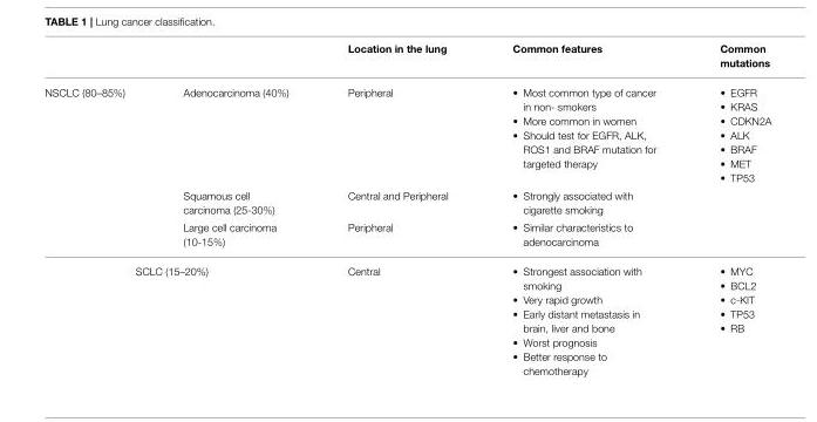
<table><thead><tr><td></td><td></td><td>Location in the lung</td><td>Common features</td><td>Common mutations</td></tr></thead><tbody><tr><td rowspan="3">NSCLC (80–85%)</td><td>Adenocarcinoma (40%)</td><td>Peripheral</td><td>• Most common type of cancer in non- smokers • More common in women • Should test for EGFR, ALK, ROS1 and BRAF mutation for targeted therapy</td><td>• EGFR • KRAS • CDKN2A • ALK • BRAF • MET • TP53</td></tr><tr><td>Squamous cell carcinoma (25-30%)</td><td>Central and Peripheral</td><td>• Strongly associated with cigarette smoking</td><td></td></tr><tr><td>Large cell carcinoma (10-15%)</td><td>Peripheral</td><td>• Similar characteristics to adenocarcinoma</td><td></td></tr><tr><td colspan="2">SCLC (15–20%)</td><td>Central</td><td>• Strongest association with smoking • Very rapid growth • Early distant metastasis in brain, liver and bone • Worst prognosis • Better response to chemotherapy</td><td>• MYC • BCL2 • c-KIT • TP53 • RB</td></tr></tbody></table>